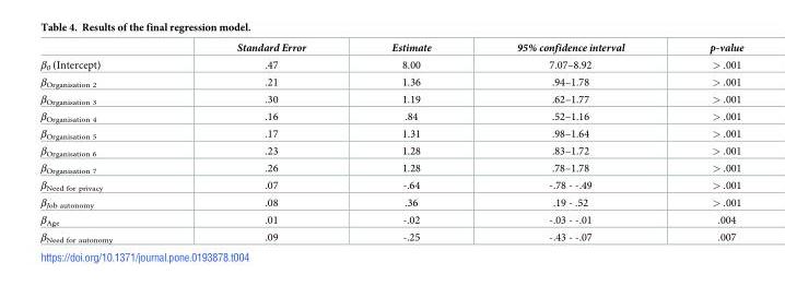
<table><thead><tr><td></td><td>Standard Error</td><td>Estimate</td><td>95% confidence interval</td><td>p-value</td></tr></thead><tbody><tr><td>β<sub>0</sub> (Intercept)</td><td>.47</td><td>8.00</td><td>7.07–8.92</td><td>&gt; .001</td></tr><tr><td>β<sub>Organisation 2</sub></td><td>.21</td><td>1.36</td><td>.94–1.78</td><td>&gt; .001</td></tr><tr><td>β<sub>Organisation 3</sub></td><td>.30</td><td>1.19</td><td>.62–1.77</td><td>&gt; .001</td></tr><tr><td>β<sub>Organisation 4</sub></td><td>.16</td><td>.84</td><td>.52–1.16</td><td>&gt; .001</td></tr><tr><td>β<sub>Organisation 5</sub></td><td>.17</td><td>1.31</td><td>.98–1.64</td><td>&gt; .001</td></tr><tr><td>β<sub>Organisation 6</sub></td><td>.23</td><td>1.28</td><td>.83–1.72</td><td>&gt; .001</td></tr><tr><td>β<sub>Organisation 7</sub></td><td>.26</td><td>1.28</td><td>.78–1.78</td><td>&gt; .001</td></tr><tr><td>β<sub>Need for privacy</sub></td><td>.07</td><td>-.64</td><td>-.78 - -.49</td><td>&gt; .001</td></tr><tr><td>β<sub>Job autonomy</sub></td><td>.08</td><td>.36</td><td>.19 - .52</td><td>&gt; .001</td></tr><tr><td>β<sub>Age</sub></td><td>.01</td><td>-.02</td><td>-.03 - -.01</td><td>.004</td></tr><tr><td>β<sub>Need for autonomy</sub></td><td>.09</td><td>-.25</td><td>-.43 - -.07</td><td>.007</td></tr></tbody></table>